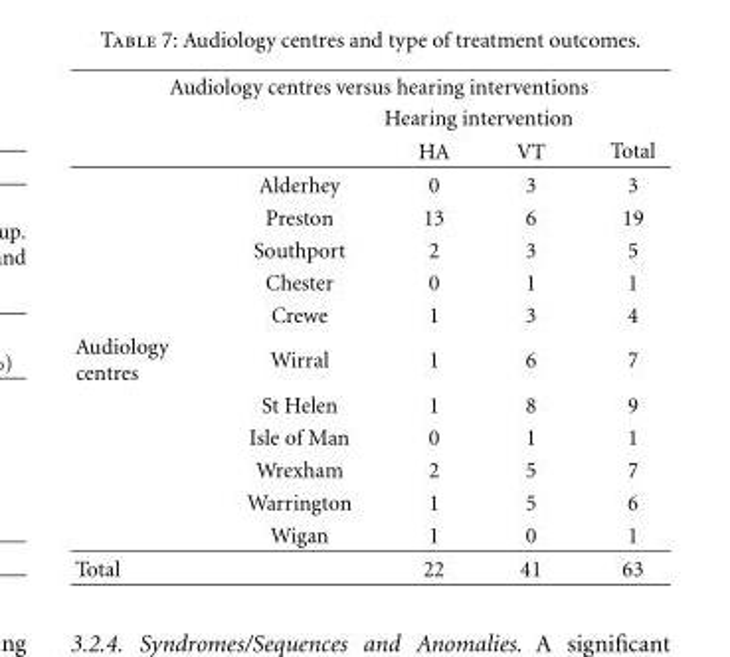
<table><thead><tr><td colspan="5">Audiology centres versus hearing interventions</td></tr><tr><td rowspan="2"></td><td rowspan="2"></td><td colspan="2">Hearing intervention</td><td rowspan="2">Total</td></tr><tr><td>HA</td><td>VT</td></tr></thead><tbody><tr><td></td><td>Alderhey</td><td>0</td><td>3</td><td>3</td></tr><tr><td></td><td>Preston</td><td>13</td><td>6</td><td>19</td></tr><tr><td></td><td>Southport</td><td>2</td><td>3</td><td>5</td></tr><tr><td></td><td>Chester</td><td>0</td><td>1</td><td>1</td></tr><tr><td></td><td>Crewe</td><td>1</td><td>3</td><td>4</td></tr><tr><td rowspan="6">Audiology centres</td><td>Wirral</td><td>1</td><td>6</td><td>7</td></tr><tr><td>St Helen</td><td>1</td><td>8</td><td>9</td></tr><tr><td>Isle of Man</td><td>0</td><td>1</td><td>1</td></tr><tr><td>Wrexham</td><td>2</td><td>5</td><td>7</td></tr><tr><td>Warrington</td><td>1</td><td>5</td><td>6</td></tr><tr><td>Wigan</td><td>1</td><td>0</td><td>1</td></tr><tr><td>Total</td><td></td><td>22</td><td>41</td><td>63</td></tr></tbody></table>